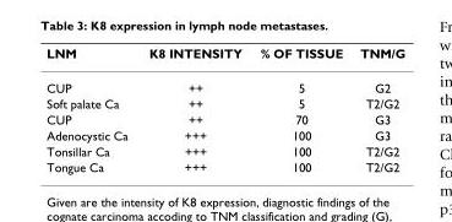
<table><thead><tr><td>LNM</td><td>K8 INTENSITY</td><td>% OF TISSUE</td><td>TNM/G</td></tr></thead><tbody><tr><td>CUP</td><td>++</td><td>5</td><td>G2</td></tr><tr><td>Soft palate Ca</td><td>++</td><td>5</td><td>T2/G2</td></tr><tr><td>CUP</td><td>++</td><td>70</td><td>G3</td></tr><tr><td>Adenocystic Ca</td><td>+++</td><td>100</td><td>G3</td></tr><tr><td>Tonsillar Ca</td><td>+++</td><td>100</td><td>T2/G2</td></tr><tr><td>Tongue Ca</td><td>+++</td><td>100</td><td>T2/G2</td></tr></tbody></table>